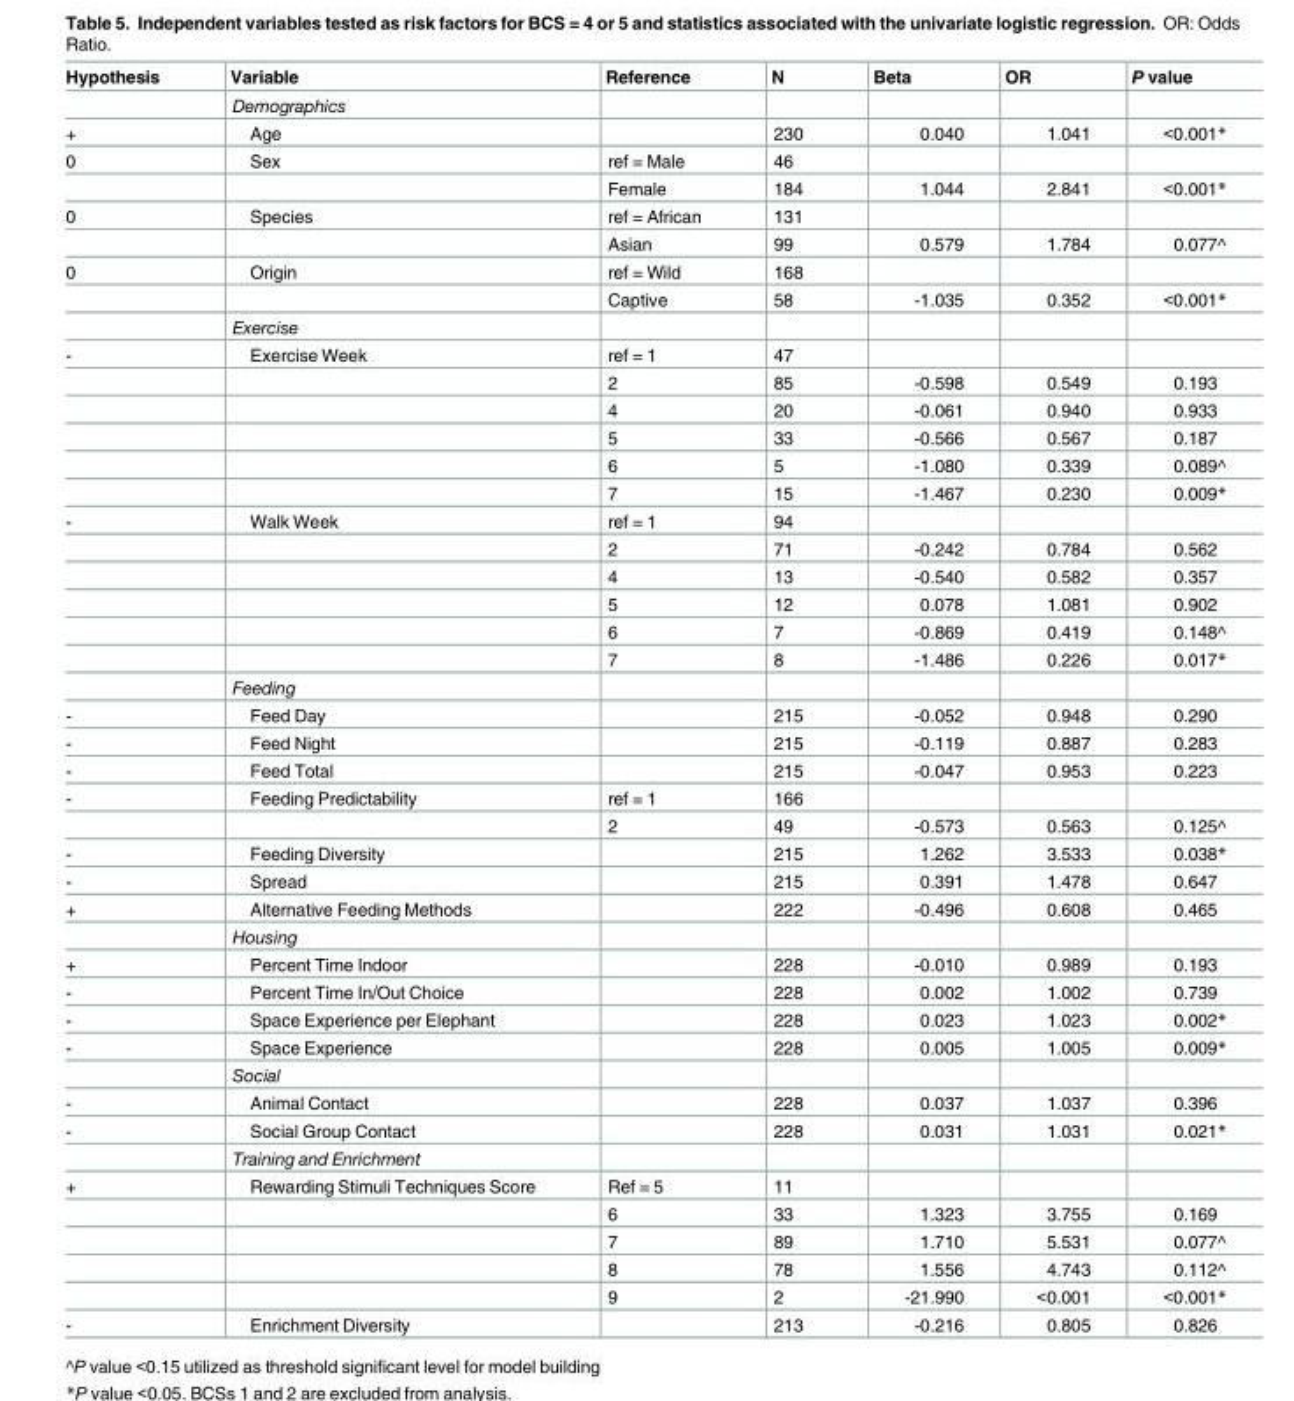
<table><thead><tr><td>Hypothesis</td><td>Variable</td><td>Reference</td><td>N</td><td>Beta</td><td>OR</td><td>P value</td></tr></thead><tbody><tr><td></td><td>Demographics</td><td></td><td></td><td></td><td></td><td></td></tr><tr><td>+</td><td>Age</td><td></td><td>230</td><td>0.040</td><td>1.041</td><td>&lt;0.001*</td></tr><tr><td rowspan="2">0</td><td>Sex</td><td>ref = Male</td><td>46</td><td></td><td></td><td></td></tr><tr><td></td><td>Female</td><td>184</td><td>1.044</td><td>2.841</td><td>&lt;0.001*</td></tr><tr><td rowspan="2">0</td><td>Species</td><td>ref = African</td><td>131</td><td></td><td></td><td></td></tr><tr><td></td><td>Asian</td><td>99</td><td>0.579</td><td>1.784</td><td>0.077^</td></tr><tr><td rowspan="3">0</td><td>Origin</td><td>ref = Wild</td><td>168</td><td></td><td></td><td></td></tr><tr><td></td><td>Captive</td><td>58</td><td>-1.035</td><td>0.352</td><td>&lt;0.001*</td></tr><tr><td>Exercise</td><td></td><td></td><td></td><td></td><td></td></tr><tr><td rowspan="6">-</td><td>Exercise Week</td><td>ref = 1</td><td>47</td><td></td><td></td><td></td></tr><tr><td></td><td>2</td><td>85</td><td>-0.598</td><td>0.549</td><td>0.193</td></tr><tr><td></td><td>4</td><td>20</td><td>-0.061</td><td>0.940</td><td>0.933</td></tr><tr><td></td><td>5</td><td>33</td><td>-0.566</td><td>0.567</td><td>0.187</td></tr><tr><td></td><td>6</td><td>5</td><td>-1.080</td><td>0.339</td><td>0.089^</td></tr><tr><td></td><td>7</td><td>15</td><td>-1.467</td><td>0.230</td><td>0.009*</td></tr><tr><td rowspan="7">-</td><td>Walk Week</td><td>ref = 1</td><td>94</td><td></td><td></td><td></td></tr><tr><td></td><td>2</td><td>71</td><td>-0.242</td><td>0.784</td><td>0.562</td></tr><tr><td></td><td>4</td><td>13</td><td>-0.540</td><td>0.582</td><td>0.357</td></tr><tr><td></td><td>5</td><td>12</td><td>0.078</td><td>1.081</td><td>0.902</td></tr><tr><td></td><td>6</td><td>7</td><td>-0.869</td><td>0.419</td><td>0.148^</td></tr><tr><td></td><td>7</td><td>8</td><td>-1.486</td><td>0.226</td><td>0.017*</td></tr><tr><td>Feeding</td><td></td><td></td><td></td><td></td><td></td></tr><tr><td>-</td><td>Feed Day</td><td></td><td>215</td><td>-0.052</td><td>0.948</td><td>0.290</td></tr><tr><td>-</td><td>Feed Night</td><td></td><td>215</td><td>-0.119</td><td>0.887</td><td>0.283</td></tr><tr><td>-</td><td>Feed Total</td><td></td><td>215</td><td>-0.047</td><td>0.953</td><td>0.223</td></tr><tr><td rowspan="2">-</td><td>Feeding Predictability</td><td>ref = 1</td><td>166</td><td></td><td></td><td></td></tr><tr><td></td><td>2</td><td>49</td><td>-0.573</td><td>0.563</td><td>0.125^</td></tr><tr><td>-</td><td>Feeding Diversity</td><td></td><td>215</td><td>1.262</td><td>3.533</td><td>0.038*</td></tr><tr><td>-</td><td>Spread</td><td></td><td>215</td><td>0.391</td><td>1.478</td><td>0.647</td></tr><tr><td rowspan="2">+</td><td>Alternative Feeding Methods</td><td></td><td>222</td><td>-0.496</td><td>0.608</td><td>0.465</td></tr><tr><td>Housing</td><td></td><td></td><td></td><td></td><td></td></tr><tr><td>+</td><td>Percent Time Indoor</td><td></td><td>228</td><td>-0.010</td><td>0.989</td><td>0.193</td></tr><tr><td>-</td><td>Percent Time In/Out Choice</td><td></td><td>228</td><td>0.002</td><td>1.002</td><td>0.739</td></tr><tr><td>-</td><td>Space Experience per Elephant</td><td></td><td>228</td><td>0.023</td><td>1.023</td><td>0.002*</td></tr><tr><td rowspan="2">-</td><td>Space Experience</td><td></td><td>228</td><td>0.005</td><td>1.005</td><td>0.009*</td></tr><tr><td>Social</td><td></td><td></td><td></td><td></td><td></td></tr><tr><td>-</td><td>Animal Contact</td><td></td><td>228</td><td>0.037</td><td>1.037</td><td>0.396</td></tr><tr><td rowspan="2">-</td><td>Social Group Contact</td><td></td><td>228</td><td>0.031</td><td>1.031</td><td>0.021*</td></tr><tr><td>Training and Enrichment</td><td></td><td></td><td></td><td></td><td></td></tr><tr><td rowspan="5">+</td><td>Rewarding Stimuli Techniques Score</td><td>Ref = 5</td><td>11</td><td></td><td></td><td></td></tr><tr><td></td><td>6</td><td>33</td><td>1.323</td><td>3.755</td><td>0.169</td></tr><tr><td></td><td>7</td><td>89</td><td>1.710</td><td>5.531</td><td>0.077^</td></tr><tr><td></td><td>8</td><td>78</td><td>1.556</td><td>4.743</td><td>0.112^</td></tr><tr><td></td><td>9</td><td>2</td><td>-21.990</td><td>&lt;0.001</td><td>&lt;0.001*</td></tr><tr><td>-</td><td>Enrichment Diversity</td><td></td><td>213</td><td>-0.216</td><td>0.805</td><td>0.826</td></tr></tbody></table>